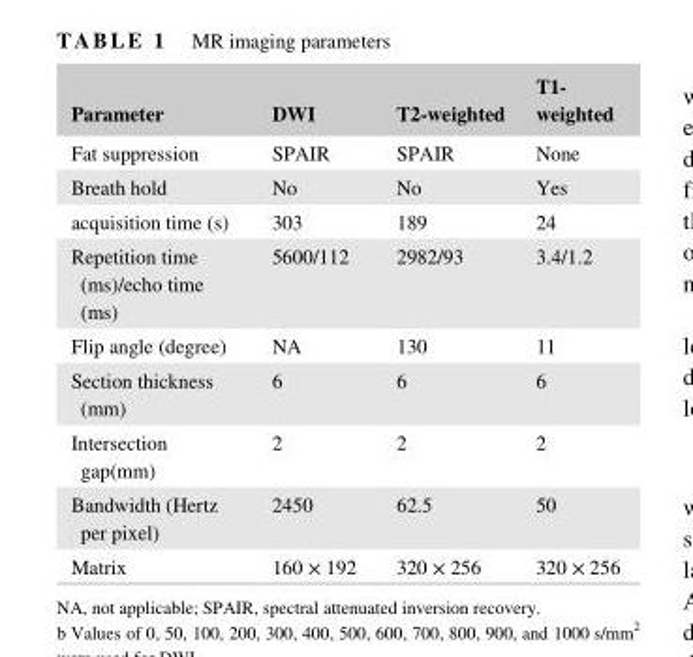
<table><thead><tr><td>Parameter</td><td>DWI</td><td>T2- weighted</td><td>T1- weighted</td></tr></thead><tbody><tr><td>Fat suppression</td><td>SPAIR</td><td>SPAIR</td><td>None</td></tr><tr><td>Breath hold</td><td>No</td><td>No</td><td>Yes</td></tr><tr><td>acquisition time (s)</td><td>303</td><td>189</td><td>24</td></tr><tr><td>Repetition time (ms)/echo time (ms)</td><td>5600/112</td><td>2982/93</td><td>3.4/1.2</td></tr><tr><td>Flip angle (degree)</td><td>NA</td><td>130</td><td>11</td></tr><tr><td>Section thickness (mm)</td><td>6</td><td>6</td><td>6</td></tr><tr><td>Intersection gap(mm)</td><td>2</td><td>2</td><td>2</td></tr><tr><td>Bandwidth (Hertz per pixel)</td><td>2450</td><td>62.5</td><td>50</td></tr><tr><td>Matrix</td><td>160 × 192</td><td>320 × 256</td><td>320 × 256</td></tr></tbody></table>